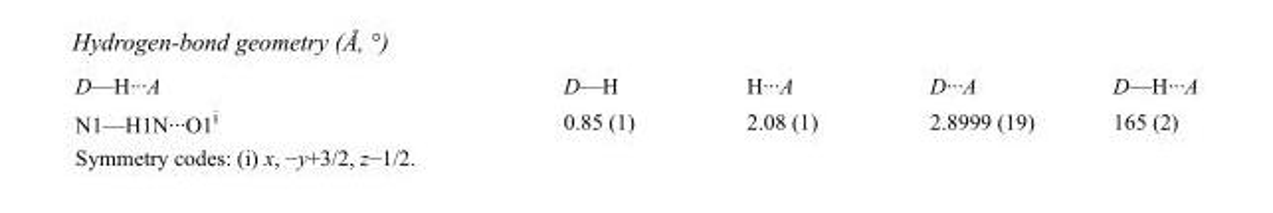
<table><tbody><tr><td>D—H···A</td><td>D—H</td><td>H···A</td><td>D···A</td><td>D—H···A</td></tr><tr><td>N1—H1N···O1<sup>i</sup></td><td>0.85 (1)</td><td>2.08 (1)</td><td>2.8999 (19)</td><td>165 (2)</td></tr></tbody></table>